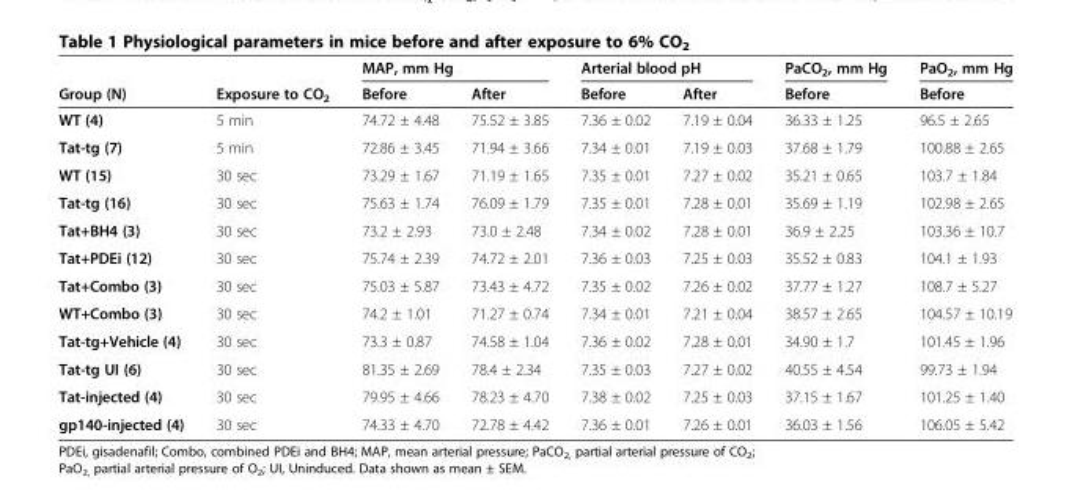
<table><thead><tr><td rowspan="2">Group (N)</td><td rowspan="2">Exposure to CO<sub>2</sub></td><td colspan="2">MAP, mm Hg</td><td colspan="2">Arterial blood pH</td><td rowspan="2">PaCO<sub>2</sub>, mm Hg Before</td><td rowspan="2">PaO<sub>2</sub>, mm Hg Before</td></tr><tr><td>Before</td><td>After</td><td>Before</td><td>After</td></tr></thead><tbody><tr><td>WT (4)</td><td>5 min</td><td>74.72 ± 4.48</td><td>75.52 ± 3.85</td><td>7.36 ± 0.02</td><td>7.19 ± 0.04</td><td>36.33 ± 1.25</td><td>96.5 ± 2.65</td></tr><tr><td>Tat-tg (7)</td><td>5 min</td><td>72.86 ± 3.45</td><td>71.94 ± 3.66</td><td>7.34 ± 0.01</td><td>7.19 ± 0.03</td><td>37.68 ± 1.79</td><td>100.88 ± 2.65</td></tr><tr><td>WT (15)</td><td>30 sec</td><td>73.29 ± 1.67</td><td>71.19 ± 1.65</td><td>7.35 ± 0.01</td><td>7.27 ± 0.02</td><td>35.21 ± 0.65</td><td>103.7 ± 1.84</td></tr><tr><td>Tat-tg (16)</td><td>30 sec</td><td>75.63 ± 1.74</td><td>76.09 ± 1.79</td><td>7.35 ± 0.01</td><td>7.28 ± 0.01</td><td>35.69 ± 1.19</td><td>102.98 ± 2.65</td></tr><tr><td>Tat+BH4 (3)</td><td>30 sec</td><td>73.2 ± 2.93</td><td>73.0 ± 2.48</td><td>7.34 ± 0.02</td><td>7.28 ± 0.01</td><td>36.9 ± 2.25</td><td>103.36 ± 10.7</td></tr><tr><td>Tat+PDEi (12)</td><td>30 sec</td><td>75.74 ± 2.39</td><td>74.72 ± 2.01</td><td>7.36 ± 0.03</td><td>7.25 ± 0.03</td><td>35.52 ± 0.83</td><td>104.1 ± 1.93</td></tr><tr><td>Tat+Combo (3)</td><td>30 sec</td><td>75.03 ± 5.87</td><td>73.43 ± 4.72</td><td>7.35 ± 0.02</td><td>7.26 ± 0.02</td><td>37.77 ± 1.27</td><td>108.7 ± 5.27</td></tr><tr><td>WT+Combo (3)</td><td>30 sec</td><td>74.2 ± 1.01</td><td>71.27 ± 0.74</td><td>7.34 ± 0.01</td><td>7.21 ± 0.04</td><td>38.57 ± 2.65</td><td>104.57 ± 10.19</td></tr><tr><td>Tat-tg+Vehicle (4)</td><td>30 sec</td><td>73.3 ± 0.87</td><td>74.58 ± 1.04</td><td>7.36 ± 0.02</td><td>7.28 ± 0.01</td><td>34.90 ± 1.7</td><td>101.45 ± 1.96</td></tr><tr><td>Tat-tg UI (6)</td><td>30 sec</td><td>81.35 ± 2.69</td><td>78.4 ± 2.34</td><td>7.35 ± 0.03</td><td>7.27 ± 0.02</td><td>40.55 ± 4.54</td><td>99.73 ± 1.94</td></tr><tr><td>Tat-injected (4)</td><td>30 sec</td><td>79.95 ± 4.66</td><td>78.23 ± 4.70</td><td>7.38 ± 0.02</td><td>7.25 ± 0.03</td><td>37.15 ± 1.67</td><td>101.25 ± 1.40</td></tr><tr><td>gp140-injected (4)</td><td>30 sec</td><td>74.33 ± 4.70</td><td>72.78 ± 4.42</td><td>7.36 ± 0.01</td><td>7.26 ± 0.01</td><td>36.03 ± 1.56</td><td>106.05 ± 5.42</td></tr></tbody></table>